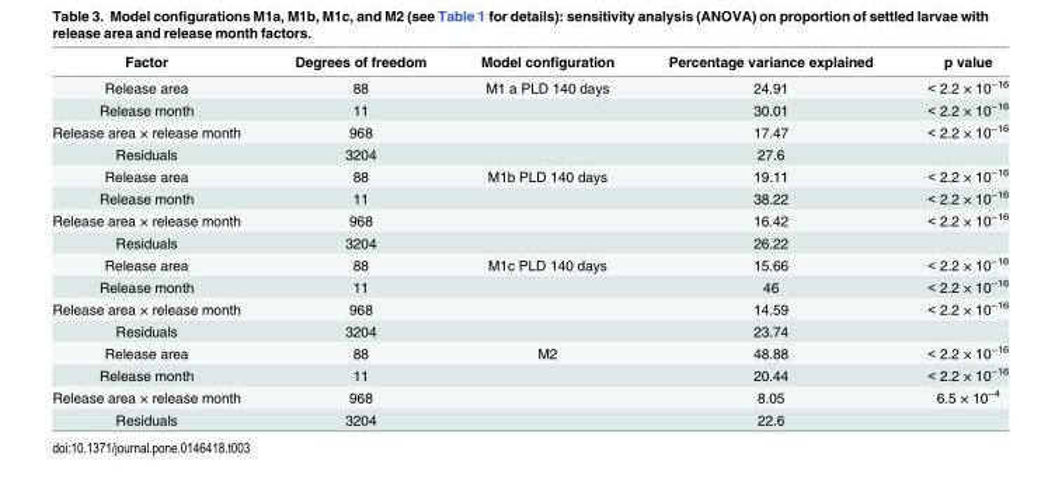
<table><thead><tr><td>Factor</td><td>Degrees of freedom</td><td>Model configuration</td><td>Percentage variance explained</td><td>p value</td></tr></thead><tbody><tr><td>Release area</td><td>88</td><td>M1 a PLD 140 days</td><td>24.91</td><td>&lt; 2.2 × 10<sup>−16</sup></td></tr><tr><td>Release month</td><td>11</td><td></td><td>30.01</td><td>&lt; 2.2 × 10<sup>−16</sup></td></tr><tr><td>Release area × release month</td><td>968</td><td></td><td>17.47</td><td>&lt; 2.2 × 10<sup>−16</sup></td></tr><tr><td>Residuals</td><td>3204</td><td></td><td>27.6</td><td></td></tr><tr><td>Release area</td><td>88</td><td>M1b PLD 140 days</td><td>19.11</td><td>&lt; 2.2 × 10<sup>−16</sup></td></tr><tr><td>Release month</td><td>11</td><td></td><td>38.22</td><td>&lt; 2.2 × 10<sup>−16</sup></td></tr><tr><td>Release area × release month</td><td>968</td><td></td><td>16.42</td><td>&lt; 2.2 × 10<sup>−16</sup></td></tr><tr><td>Residuals</td><td>3204</td><td></td><td>26.22</td><td></td></tr><tr><td>Release area</td><td>88</td><td>M1c PLD 140 days</td><td>15.66</td><td>&lt; 2.2 × 10<sup>−16</sup></td></tr><tr><td>Release month</td><td>11</td><td></td><td>46</td><td>&lt; 2.2 × 10<sup>−16</sup></td></tr><tr><td>Release area × release month</td><td>968</td><td></td><td>14.59</td><td>&lt; 2.2 × 10<sup>−16</sup></td></tr><tr><td>Residuals</td><td>3204</td><td></td><td>23.74</td><td></td></tr><tr><td>Release area</td><td>88</td><td>M2</td><td>48.88</td><td>&lt; 2.2 × 10<sup>−16</sup></td></tr><tr><td>Release month</td><td>11</td><td></td><td>20.44</td><td>&lt; 2.2 × 10<sup>−16</sup></td></tr><tr><td>Release area × release month</td><td>968</td><td></td><td>8.05</td><td>6.5 × 10<sup>−4</sup></td></tr><tr><td>Residuals</td><td>3204</td><td></td><td>22.6</td><td></td></tr></tbody></table>